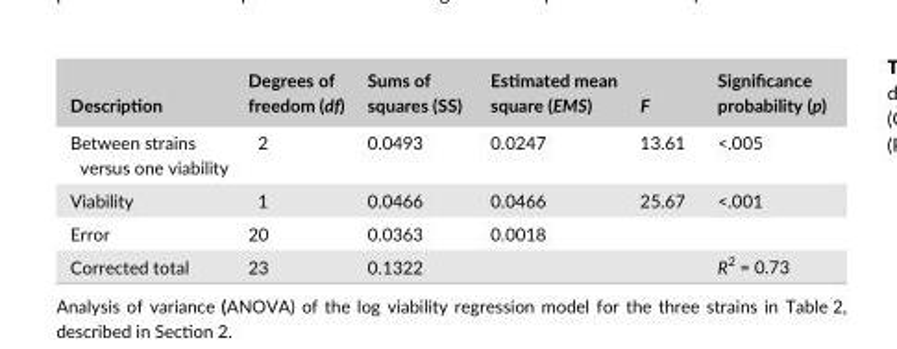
<table><thead><tr><td>Description</td><td>Degrees of freedom (df)</td><td>Sums of squares (SS)</td><td>Estimated mean square (EMS)</td><td>F</td><td>Significance probability (p)</td></tr></thead><tbody><tr><td>Between strains versus one viability</td><td>2</td><td>0.0493</td><td>0.0247</td><td>13.61</td><td>&lt;.005</td></tr><tr><td>Viability</td><td>1</td><td>0.0466</td><td>0.0466</td><td>25.67</td><td>&lt;.001</td></tr><tr><td>Error</td><td>20</td><td>0.0363</td><td>0.0018</td><td></td><td></td></tr><tr><td>Corrected total</td><td>23</td><td>0.1322</td><td></td><td></td><td>R<sup>2</sup> = 0.73</td></tr></tbody></table>